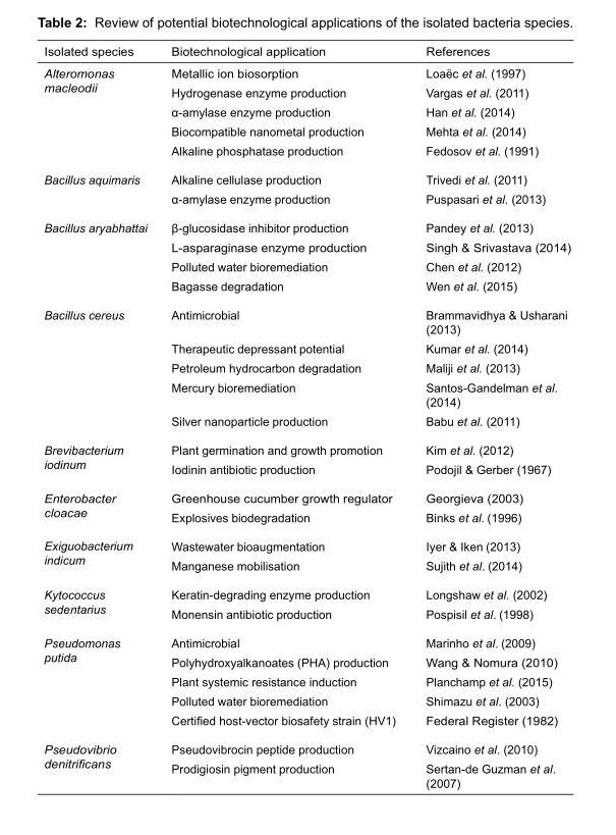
<table><thead><tr><td>Isolated species</td><td>Biotechnological application</td><td>References</td></tr></thead><tbody><tr><td rowspan="5">Alteromonas macleodii</td><td>Metallic ion biosorption</td><td>Loaëc et al. (1997)</td></tr><tr><td>Hydrogenase enzyme production</td><td>Vargas et al. (2011)</td></tr><tr><td>α-amylase enzyme production</td><td>Han et al. (2014)</td></tr><tr><td>Biocompatible nanometal production</td><td>Mehta et al. (2014)</td></tr><tr><td>Alkaline phosphatase production</td><td>Fedosov et al. (1991)</td></tr><tr><td rowspan="2">Bacillus aquimaris</td><td>Alkaline cellulase production</td><td>Trivedi et al. (2011)</td></tr><tr><td>α-amylase enzyme production</td><td>Puspasari et al. (2013)</td></tr><tr><td rowspan="4">Bacillus aryabhattai</td><td>β-glucosidase inhibitor production</td><td>Pandey et al. (2013)</td></tr><tr><td>L-asparaginase enzyme production</td><td>Singh &amp; Srivastava (2014)</td></tr><tr><td>Polluted water bioremediation</td><td>Chen et al. (2012)</td></tr><tr><td>Bagasse degradation</td><td>Wen et al. (2015)</td></tr><tr><td rowspan="5">Bacillus cereus</td><td>Antimicrobial</td><td>Brammavidhya &amp; Usharani (2013)</td></tr><tr><td>Therapeutic depressant potential</td><td>Kumar et al. (2014)</td></tr><tr><td>Petroleum hydrocarbon degradation</td><td>Maliji et al. (2013)</td></tr><tr><td>Mercury bioremediation</td><td>Santos-Gandelman et al. (2014)</td></tr><tr><td>Silver nanoparticle production</td><td>Babu et al. (2011)</td></tr><tr><td rowspan="2">Brevibacterium iodinum</td><td>Plant germination and growth promotion</td><td>Kim et al. (2012)</td></tr><tr><td>Iodinin antibiotic production</td><td>Podojil &amp; Gerber (1967)</td></tr><tr><td rowspan="2">Enterobacter cloacae</td><td>Greenhouse cucumber growth regulator</td><td>Georgieva (2003)</td></tr><tr><td>Explosives biodegradation</td><td>Binks et al. (1996)</td></tr><tr><td rowspan="2">Exiguobacterium indicum</td><td>Wastewater bioaugmentation</td><td>Iyer &amp; Iken (2013)</td></tr><tr><td>Manganese mobilisation</td><td>Sujith et al. (2014)</td></tr><tr><td rowspan="2">Kytococcus sedentarius</td><td>Keratin-degrading enzyme production</td><td>Longshaw et al. (2002)</td></tr><tr><td>Monensin antibiotic production</td><td>Pospisil et al. (1998)</td></tr><tr><td rowspan="5">Pseudomonas putida</td><td>Antimicrobial</td><td>Marinho et al. (2009)</td></tr><tr><td>Polyhydroxyalkanoates (PHA) production</td><td>Wang &amp; Nomura (2010)</td></tr><tr><td>Plant systemic resistance induction</td><td>Planchamp et al. (2015)</td></tr><tr><td>Polluted water bioremediation</td><td>Shimazu et al. (2003)</td></tr><tr><td>Certified host-vector biosafety strain (HV1)</td><td>Federal Register (1982)</td></tr><tr><td rowspan="2">Pseudovibrio denitrificans</td><td>Pseudovibrocin peptide production</td><td>Vizcaino et al. (2010)</td></tr><tr><td>Prodigiosin pigment production</td><td>Sertan-de Guzman et al. (2007)</td></tr></tbody></table>